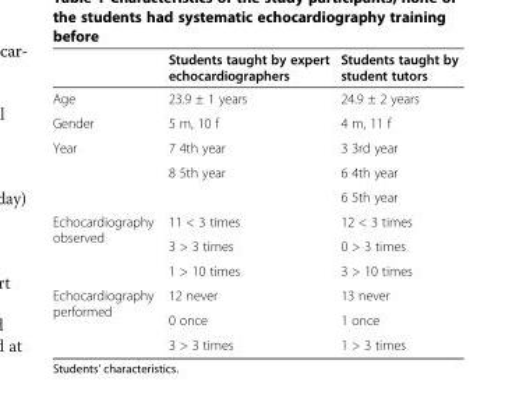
<table><thead><tr><td></td><td>Students taught by expert echocardiographers</td><td>Students taught by student tutors</td></tr></thead><tbody><tr><td>Age</td><td>23.9 ± 1 years</td><td>24.9 ± 2 years</td></tr><tr><td>Gender</td><td>5 m, 10 f</td><td>4 m, 11 f</td></tr><tr><td rowspan="3">Year</td><td>7 4th year</td><td>3 3rd year</td></tr><tr><td>8 5th year</td><td>6 4th year</td></tr><tr><td></td><td>6 5th year</td></tr><tr><td rowspan="3">Echocardiography observed</td><td>11 &lt; 3 times</td><td>12 &lt; 3 times</td></tr><tr><td>3 &gt; 3 times</td><td>0 &gt; 3 times</td></tr><tr><td>1 &gt; 10 times</td><td>3 &gt; 10 times</td></tr><tr><td rowspan="3">Echocardiography performed</td><td>12 never</td><td>13 never</td></tr><tr><td>0 once</td><td>1 once</td></tr><tr><td>3 &gt; 3 times</td><td>1 &gt; 3 times</td></tr></tbody></table>